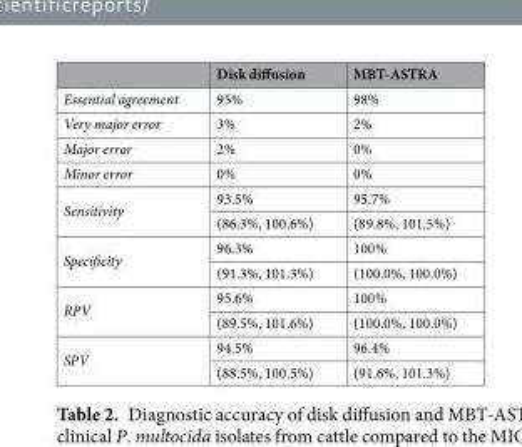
<table><thead><tr><td></td><td>Disk diffusion</td><td>MBT-ASTRA</td></tr></thead><tbody><tr><td>Essential agreement</td><td>95%</td><td>98%</td></tr><tr><td>Very major error</td><td>3%</td><td>2%</td></tr><tr><td>Major error</td><td>2%</td><td>0%</td></tr><tr><td>Minor error</td><td>0%</td><td>0%</td></tr><tr><td rowspan="2">Sensitivity</td><td>93.5%</td><td>95.7%</td></tr><tr><td>(86.3%, 100.6%)</td><td>(89.8%, 101.5%)</td></tr><tr><td rowspan="2">Specificity</td><td>96.3%</td><td>100%</td></tr><tr><td>(91.3%, 101.3%)</td><td>(100.0%, 100.0%)</td></tr><tr><td rowspan="2">RPV</td><td>95.6%</td><td>100%</td></tr><tr><td>(89.5%, 101.6%)</td><td>(100.0%, 100.0%)</td></tr><tr><td rowspan="2">SPV</td><td>94.5%</td><td>96.4%</td></tr><tr><td>(88.5%, 100.5%)</td><td>(91.6%, 101.3%)</td></tr></tbody></table>